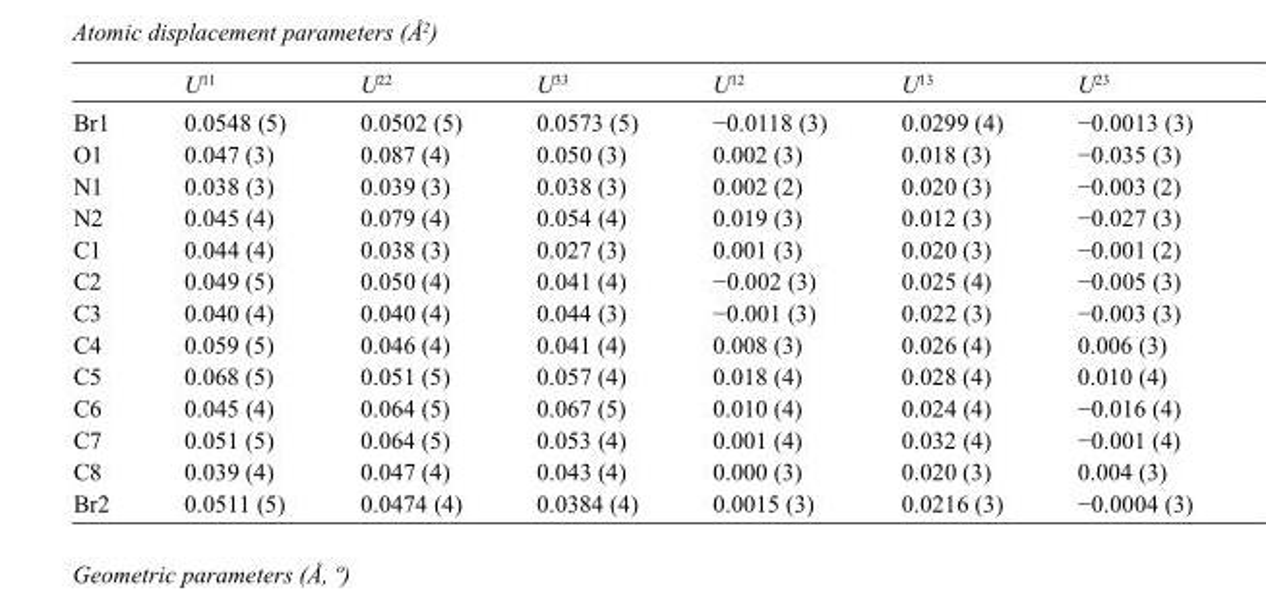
<table><thead><tr><td></td><td>U<sup>11</sup></td><td>U<sup>22</sup></td><td>U<sup>33</sup></td><td>U<sup>12</sup></td><td>U<sup>13</sup></td><td>U<sup>23</sup></td></tr></thead><tbody><tr><td>Br1</td><td>0.0548 (5)</td><td>0.0502 (5)</td><td>0.0573 (5)</td><td>−0.0118 (3)</td><td>0.0299 (4)</td><td>−0.0013 (3)</td></tr><tr><td>O1</td><td>0.047 (3)</td><td>0.087 (4)</td><td>0.050 (3)</td><td>0.002 (3)</td><td>0.018 (3)</td><td>−0.035 (3)</td></tr><tr><td>N1</td><td>0.038 (3)</td><td>0.039 (3)</td><td>0.038 (3)</td><td>0.002 (2)</td><td>0.020 (3)</td><td>−0.003 (2)</td></tr><tr><td>N2</td><td>0.045 (4)</td><td>0.079 (4)</td><td>0.054 (4)</td><td>0.019 (3)</td><td>0.012 (3)</td><td>−0.027 (3)</td></tr><tr><td>C1</td><td>0.044 (4)</td><td>0.038 (3)</td><td>0.027 (3)</td><td>0.001 (3)</td><td>0.020 (3)</td><td>−0.001 (2)</td></tr><tr><td>C2</td><td>0.049 (5)</td><td>0.050 (4)</td><td>0.041 (4)</td><td>−0.002 (3)</td><td>0.025 (4)</td><td>−0.005 (3)</td></tr><tr><td>C3</td><td>0.040 (4)</td><td>0.040 (4)</td><td>0.044 (3)</td><td>−0.001 (3)</td><td>0.022 (3)</td><td>−0.003 (3)</td></tr><tr><td>C4</td><td>0.059 (5)</td><td>0.046 (4)</td><td>0.041 (4)</td><td>0.008 (3)</td><td>0.026 (4)</td><td>0.006 (3)</td></tr><tr><td>C5</td><td>0.068 (5)</td><td>0.051 (5)</td><td>0.057 (4)</td><td>0.018 (4)</td><td>0.028 (4)</td><td>0.010 (4)</td></tr><tr><td>C6</td><td>0.045 (4)</td><td>0.064 (5)</td><td>0.067 (5)</td><td>0.010 (4)</td><td>0.024 (4)</td><td>−0.016 (4)</td></tr><tr><td>C7</td><td>0.051 (5)</td><td>0.064 (5)</td><td>0.053 (4)</td><td>0.001 (4)</td><td>0.032 (4)</td><td>−0.001 (4)</td></tr><tr><td>C8</td><td>0.039 (4)</td><td>0.047 (4)</td><td>0.043 (4)</td><td>0.000 (3)</td><td>0.020 (3)</td><td>0.004 (3)</td></tr><tr><td>Br2</td><td>0.0511 (5)</td><td>0.0474 (4)</td><td>0.0384 (4)</td><td>0.0015 (3)</td><td>0.0216 (3)</td><td>−0.0004 (3)</td></tr></tbody></table>